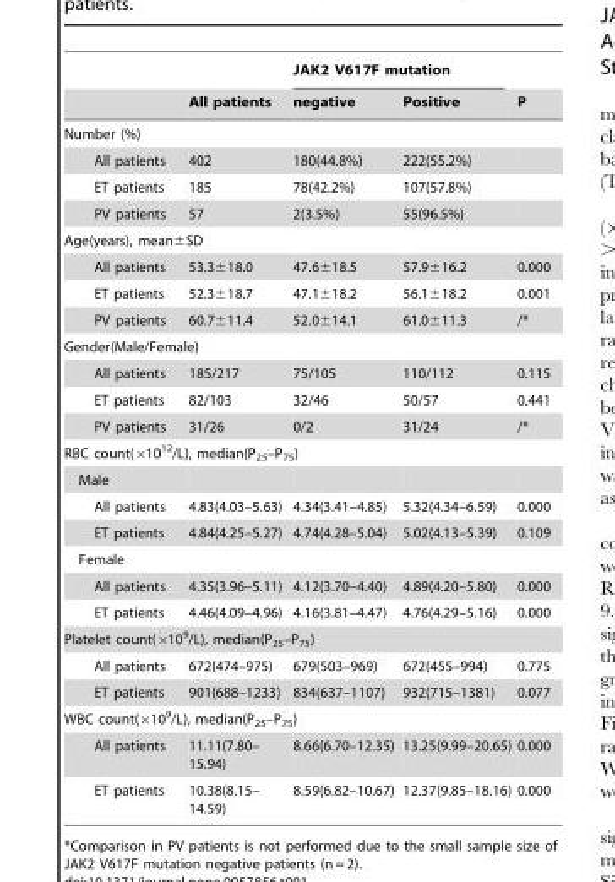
<table><thead><tr><td rowspan="2"></td><td rowspan="2">All patients</td><td colspan="2">JAK2 V617F mutation</td><td rowspan="2">P</td></tr><tr><td>negative</td><td>Positive</td></tr></thead><tbody><tr><td colspan="5">Number (%)</td></tr><tr><td>All patients</td><td>402</td><td>180(44.8%)</td><td>222(55.2%)</td><td></td></tr><tr><td>ET patients</td><td>185</td><td>78(42.2%)</td><td>107(57.8%)</td><td></td></tr><tr><td>PV patients</td><td>57</td><td>2(3.5%)</td><td>55(96.5%)</td><td></td></tr><tr><td colspan="5">Age(years), mean±SD</td></tr><tr><td>All patients</td><td>53.3±18.0</td><td>47.6±18.5</td><td>57.9±16.2</td><td>0.000</td></tr><tr><td>ET patients</td><td>52.3±18.7</td><td>47.1±18.2</td><td>56.1±18.2</td><td>0.001</td></tr><tr><td>PV patients</td><td>60.7±11.4</td><td>52.0±14.1</td><td>61.0±11.3</td><td>/*</td></tr><tr><td colspan="5">Gender(Male/Female)</td></tr><tr><td>All patients</td><td>185/217</td><td>75/105</td><td>110/112</td><td>0.115</td></tr><tr><td>ET patients</td><td>82/103</td><td>32/46</td><td>50/57</td><td>0.441</td></tr><tr><td>PV patients</td><td>31/26</td><td>0/2</td><td>31/24</td><td>/*</td></tr><tr><td colspan="5">RBC count(×10<sup>12</sup>/L), median(P<sub>25</sub>–P<sub>75</sub>)</td></tr><tr><td colspan="5">Male</td></tr><tr><td>All patients</td><td>4.83(4.03–5.63)</td><td>4.34(3.41–4.85)</td><td>5.32(4.34–6.59)</td><td>0.000</td></tr><tr><td>ET patients</td><td>4.84(4.25–5.27)</td><td>4.74(4.28–5.04)</td><td>5.02(4.13–5.39)</td><td>0.109</td></tr><tr><td colspan="5">Female</td></tr><tr><td>All patients</td><td>4.35(3.96–5.11)</td><td>4.12(3.70–4.40)</td><td>4.89(4.20–5.80)</td><td>0.000</td></tr><tr><td>ET patients</td><td>4.46(4.09–4.96)</td><td>4.16(3.81–4.47)</td><td>4.76(4.29–5.16)</td><td>0.000</td></tr><tr><td colspan="5">Platelet count(×10<sup>9</sup>/L), median(P<sub>25</sub>–P<sub>75</sub>)</td></tr><tr><td>All patients</td><td>672(474–975)</td><td>679(503–969)</td><td>672(455–994)</td><td>0.775</td></tr><tr><td>ET patients</td><td>901(688–1233)</td><td>834(637–1107)</td><td>932(715–1381)</td><td>0.077</td></tr><tr><td colspan="5">WBC count(×10<sup>9</sup>/L), median(P<sub>25</sub>–P<sub>75</sub>)</td></tr><tr><td>All patients</td><td>11.11(7.80– 15.94)</td><td>8.66(6.70–12.35)</td><td>13.25(9.99–20.65)</td><td>0.000</td></tr><tr><td>ET patients</td><td>10.38(8.15– 14.59)</td><td>8.59(6.82–10.67)</td><td>12.37(9.85–18.16)</td><td>0.000</td></tr></tbody></table>